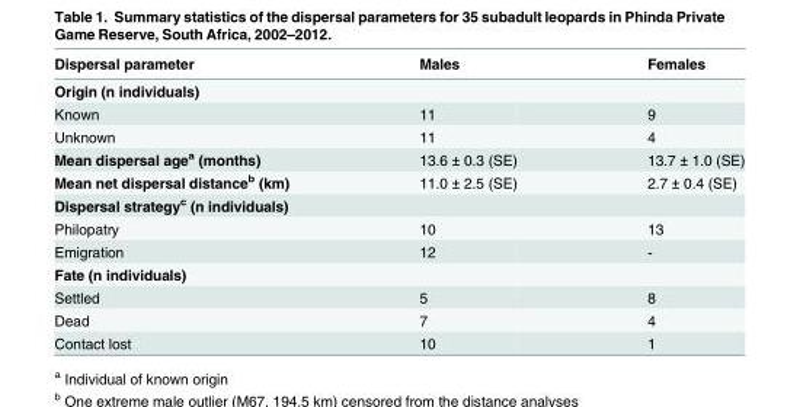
<table><thead><tr><td>Dispersal parameter</td><td>Males</td><td>Females</td></tr></thead><tbody><tr><td colspan="3">Origin (n individuals)</td></tr><tr><td>Known</td><td>11</td><td>9</td></tr><tr><td>Unknown</td><td>11</td><td>4</td></tr><tr><td>Mean dispersal age<sup>a</sup> (months)</td><td>13.6 ± 0.3 (SE)</td><td>13.7 ± 1.0 (SE)</td></tr><tr><td>Mean net dispersal distance<sup>b</sup> (km)</td><td>11.0 ± 2.5 (SE)</td><td>2.7 ± 0.4 (SE)</td></tr><tr><td colspan="3">Dispersal strategy<sup>c</sup> (n individuals)</td></tr><tr><td>Philopatry</td><td>10</td><td>13</td></tr><tr><td>Emigration</td><td>12</td><td>-</td></tr><tr><td colspan="3">Fate (n individuals)</td></tr><tr><td>Settled</td><td>5</td><td>8</td></tr><tr><td>Dead</td><td>7</td><td>4</td></tr><tr><td>Contact lost</td><td>10</td><td>1</td></tr></tbody></table>